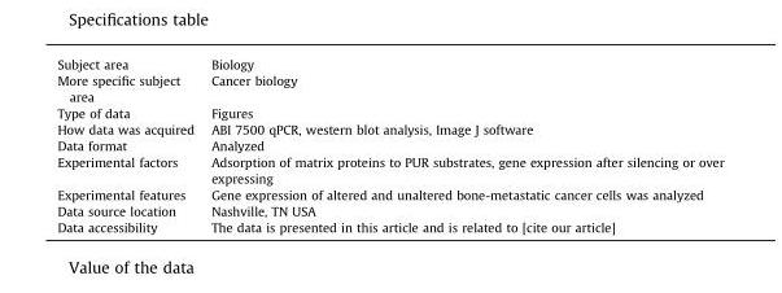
<table><tbody><tr><td>Subject area</td><td>Biology</td></tr><tr><td>More specific subject area</td><td>Cancer biology</td></tr><tr><td>Type of data</td><td>Figures</td></tr><tr><td>How data was acquired</td><td>ABI 7500 qPCR, western blot analysis, Image J software</td></tr><tr><td>Data format</td><td>Analyzed</td></tr><tr><td>Experimental factors</td><td>Adsorption of matrix proteins to PUR substrates, gene expression after silencing or over expressing</td></tr><tr><td>Experimental features</td><td>Gene expression of altered and unaltered bone-metastatic cancer cells was analyzed</td></tr><tr><td>Data source location</td><td>Nashville, TN USA</td></tr><tr><td>Data accessibility</td><td>The data is presented in this article and is related to [cite our article]</td></tr></tbody></table>